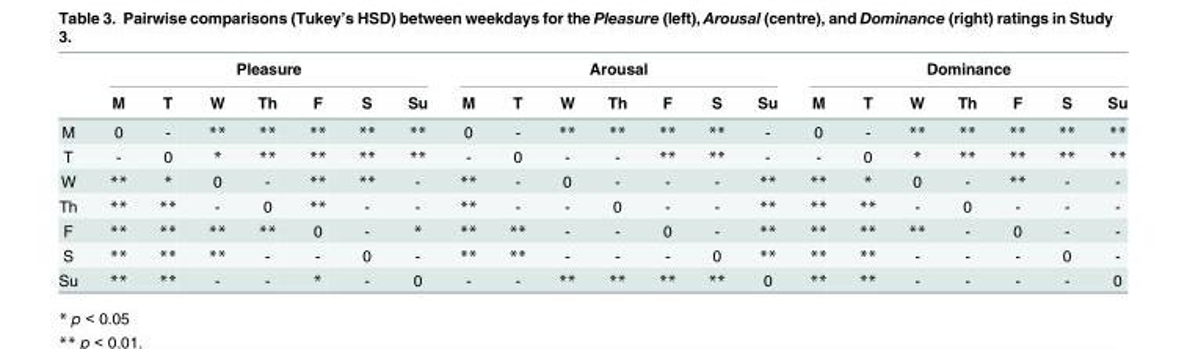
<table><thead><tr><td rowspan="2"></td><td colspan="7">Pleasure</td><td colspan="7">Arousal</td><td colspan="7">Dominance</td></tr><tr><td>M</td><td>T</td><td>W</td><td>Th</td><td>F</td><td>S</td><td>Su</td><td>M</td><td>T</td><td>W</td><td>Th</td><td>F</td><td>S</td><td>Su</td><td>M</td><td>T</td><td>W</td><td>Th</td><td>F</td><td>S</td><td>Su</td></tr></thead><tbody><tr><td>M</td><td>0</td><td>-</td><td>**</td><td>**</td><td>**</td><td>**</td><td>**</td><td>0</td><td>-</td><td>**</td><td>**</td><td>**</td><td>**</td><td>-</td><td>0</td><td>-</td><td>**</td><td>**</td><td>**</td><td>**</td><td>**</td></tr><tr><td>T</td><td>-</td><td>0</td><td>*</td><td>**</td><td>**</td><td>**</td><td>**</td><td>-</td><td>0</td><td>-</td><td>-</td><td>**</td><td>**</td><td>-</td><td>-</td><td>0</td><td>*</td><td>**</td><td>**</td><td>**</td><td>**</td></tr><tr><td>W</td><td>**</td><td>*</td><td>0</td><td>-</td><td>**</td><td>**</td><td>-</td><td>**</td><td>-</td><td>0</td><td>-</td><td>-</td><td>-</td><td>**</td><td>**</td><td>*</td><td>0</td><td>-</td><td>**</td><td>-</td><td>-</td></tr><tr><td>Th</td><td>**</td><td>**</td><td>-</td><td>0</td><td>**</td><td>-</td><td>-</td><td>**</td><td>-</td><td>-</td><td>0</td><td>-</td><td>-</td><td>**</td><td>**</td><td>**</td><td>-</td><td>0</td><td>-</td><td>-</td><td>-</td></tr><tr><td>F</td><td>**</td><td>**</td><td>**</td><td>**</td><td>0</td><td>-</td><td>*</td><td>**</td><td>**</td><td>-</td><td>-</td><td>0</td><td>-</td><td>**</td><td>**</td><td>**</td><td>**</td><td>-</td><td>0</td><td>-</td><td>-</td></tr><tr><td>S</td><td>**</td><td>**</td><td>**</td><td>-</td><td>-</td><td>0</td><td>-</td><td>**</td><td>**</td><td>-</td><td>-</td><td>-</td><td>0</td><td>**</td><td>**</td><td>**</td><td>-</td><td>-</td><td>-</td><td>0</td><td>-</td></tr><tr><td>Su</td><td>**</td><td>**</td><td>-</td><td>-</td><td>*</td><td>-</td><td>0</td><td>-</td><td>-</td><td>**</td><td>**</td><td>**</td><td>**</td><td>0</td><td>**</td><td>**</td><td>-</td><td>-</td><td>-</td><td>-</td><td>0</td></tr></tbody></table>